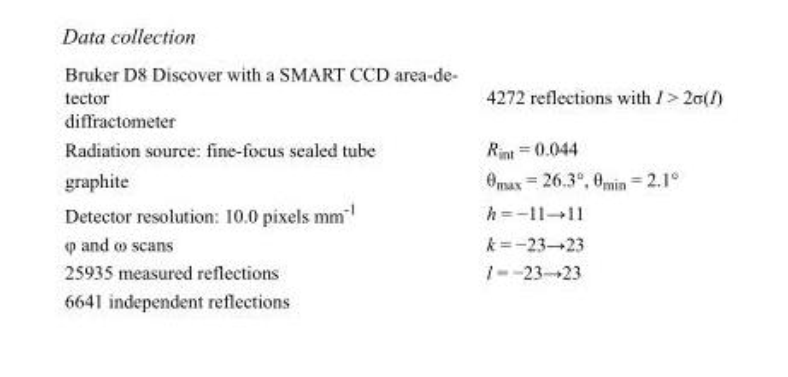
<table><tbody><tr><td>Bruker D8 Discover with a SMART CCD area-de- tector diffractometer</td><td>4272 reflections with I &gt; 2σ(I)</td></tr><tr><td>Radiation source: fine-focus sealed tube</td><td>R<sub>int</sub> = 0.044</td></tr><tr><td>graphite</td><td>θ<sub>max</sub> = 26.3°, θ<sub>min</sub> = 2.1°</td></tr><tr><td>Detector resolution: 10.0 pixels mm<sup>-1</sup></td><td>h = −11→11</td></tr><tr><td>φ and ω scans</td><td>k = −23→23</td></tr><tr><td>25935 measured reflections</td><td>l = −23→23</td></tr><tr><td>6641 independent reflections</td><td></td></tr></tbody></table>